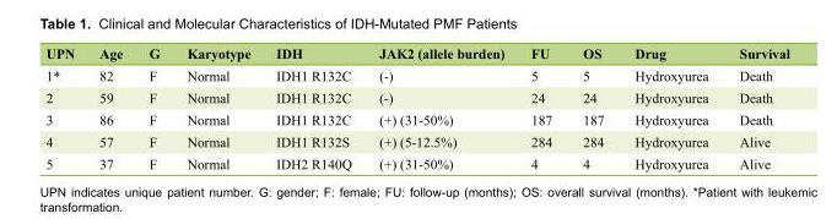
<table><thead><tr><td>UPN</td><td>Age</td><td>G</td><td>Karyotype</td><td>IDH</td><td>JAK2 (allele burden)</td><td>FU</td><td>OS</td><td>Drug</td><td>Survival</td></tr></thead><tbody><tr><td>1*</td><td>82</td><td>F</td><td>Normal</td><td>IDH1 R132C</td><td>(-)</td><td>5</td><td>5</td><td>Hydroxyurea</td><td>Death</td></tr><tr><td>2</td><td>59</td><td>F</td><td>Normal</td><td>IDH1 R132C</td><td>(-)</td><td>24</td><td>24</td><td>Hydroxyurea</td><td>Death</td></tr><tr><td>3</td><td>86</td><td>F</td><td>Normal</td><td>IDH1 R132C</td><td>(+) (31-50%)</td><td>187</td><td>187</td><td>Hydroxyurea</td><td>Death</td></tr><tr><td>4</td><td>57</td><td>F</td><td>Normal</td><td>IDH1 R132S</td><td>(+) (5-12.5%)</td><td>284</td><td>284</td><td>Hydroxyurea</td><td>Alive</td></tr><tr><td>5</td><td>37</td><td>F</td><td>Normal</td><td>IDH2 R140Q</td><td>(+) (31-50%)</td><td>4</td><td>4</td><td>Hydroxyurea</td><td>Alive</td></tr></tbody></table>